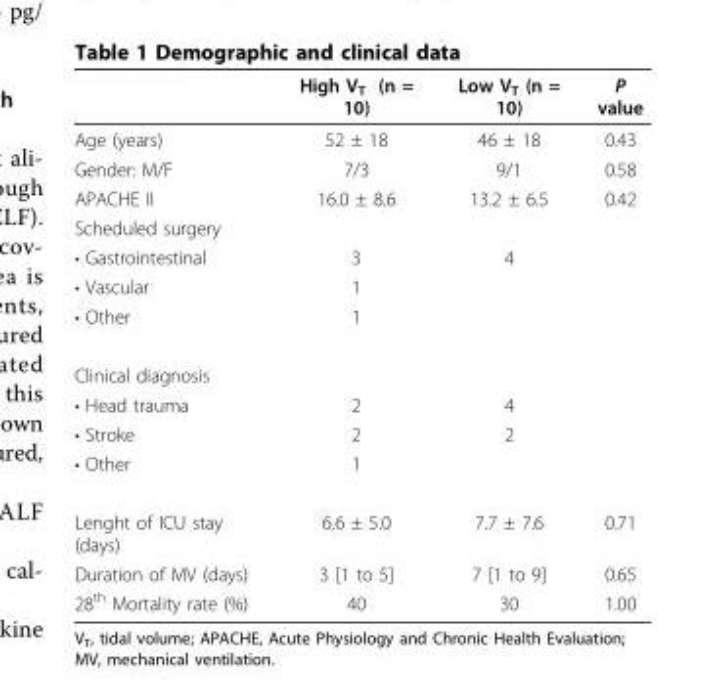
<table><thead><tr><td></td><td>High V<sub>T</sub> (n = 10)</td><td>Low V<sub>T</sub> (n = 10)</td><td>P value</td></tr></thead><tbody><tr><td>Age (years)</td><td>52 ± 18</td><td>46 ± 18</td><td>0.43</td></tr><tr><td>Gender: M/F</td><td>7/3</td><td>9/1</td><td>0.58</td></tr><tr><td>APACHE II</td><td>16.0 ± 8.6</td><td>13.2 ± 6.5</td><td>0.42</td></tr><tr><td colspan="4">Scheduled surgery</td></tr><tr><td>• Gastrointestinal</td><td>3</td><td>4</td><td></td></tr><tr><td>• Vascular</td><td>1</td><td></td><td></td></tr><tr><td>• Other</td><td>1</td><td></td><td></td></tr><tr><td colspan="4">Clinical diagnosis</td></tr><tr><td>• Head trauma</td><td>2</td><td>4</td><td></td></tr><tr><td>• Stroke</td><td>2</td><td>2</td><td></td></tr><tr><td>• Other</td><td>1</td><td></td><td></td></tr><tr><td>Lenght of ICU stay (days)</td><td>6.6 ± 5.0</td><td>7.7 ± 7.6</td><td>0.71</td></tr><tr><td>Duration of MV (days)</td><td>3 [1 to 5]</td><td>7 [1 to 9]</td><td>0.65</td></tr><tr><td>28<sup>th</sup> Mortality rate (%)</td><td>40</td><td>30</td><td>1.00</td></tr></tbody></table>